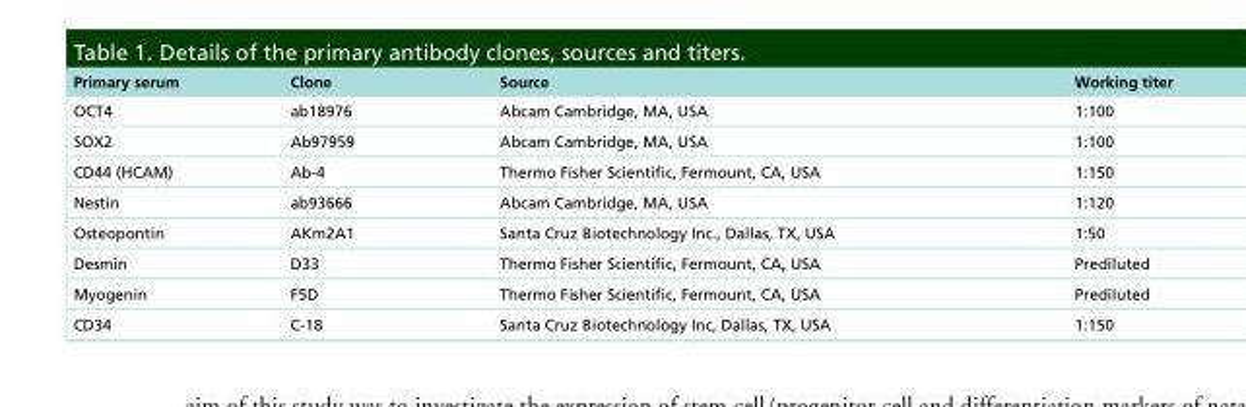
<table><thead><tr><td>Primary serum</td><td>Clone</td><td>Source</td><td>Working titer</td></tr></thead><tbody><tr><td>OCT4</td><td>ab18976</td><td>Abcam Cambridge, MA, USA</td><td>1:100</td></tr><tr><td>SOX2</td><td>Ab97959</td><td>Abcam Cambridge, MA, USA</td><td>1:100</td></tr><tr><td>CD44 (HCAM)</td><td>Ab-4</td><td>Thermo Fisher Scientific, Fermount, CA, USA</td><td>1:150</td></tr><tr><td>Nestin</td><td>ab93666</td><td>Abcam Cambridge, MA, USA</td><td>1:120</td></tr><tr><td>Osteopontin</td><td>AKm2A1</td><td>Santa Cruz Biotechnology Inc., Dallas, TX, USA</td><td>1:50</td></tr><tr><td>Desmin</td><td>D33</td><td>Thermo Fisher Scientific, Fermount, CA, USA</td><td>Prediluted</td></tr><tr><td>Myogenin</td><td>F5D</td><td>Thermo Fisher Scientific, Fermount, CA, USA</td><td>Prediluted</td></tr><tr><td>CD34</td><td>C-18</td><td>Santa Cruz Biotechnology Inc, Dallas, TX, USA</td><td>1:150</td></tr></tbody></table>